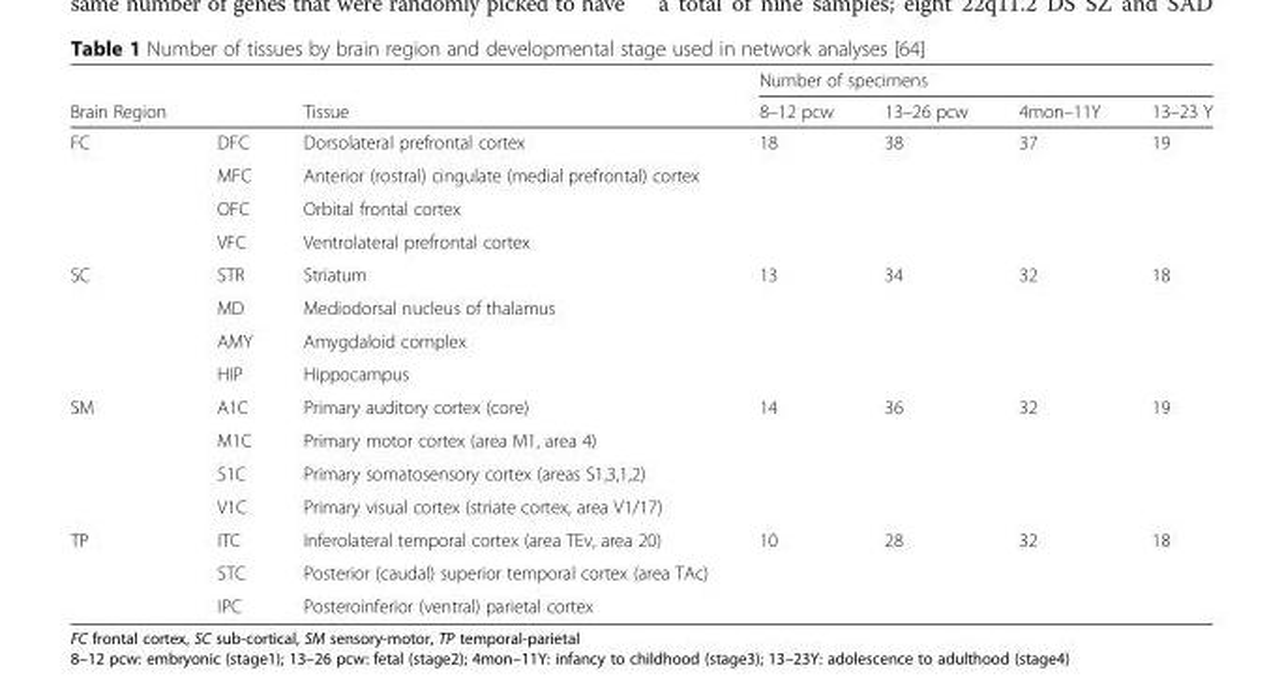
<table><thead><tr><td rowspan="2">Brain Region</td><td rowspan="2"></td><td rowspan="2">Tissue</td><td colspan="4">Number of specimens</td></tr><tr><td>8–12 pcw</td><td>13–26 pcw</td><td>4mon–11Y</td><td>13–23 Y</td></tr></thead><tbody><tr><td rowspan="4">FC</td><td>DFC</td><td>Dorsolateral prefrontal cortex</td><td rowspan="4">18</td><td rowspan="4">38</td><td rowspan="4">37</td><td rowspan="4">19</td></tr><tr><td>MFC</td><td>Anterior (rostral) cingulate (medial prefrontal) cortex</td></tr><tr><td>OFC</td><td>Orbital frontal cortex</td></tr><tr><td>VFC</td><td>Ventrolateral prefrontal cortex</td></tr><tr><td rowspan="4">SC</td><td>STR</td><td>Striatum</td><td rowspan="4">13</td><td rowspan="4">34</td><td rowspan="4">32</td><td rowspan="4">18</td></tr><tr><td>MD</td><td>Mediodorsal nucleus of thalamus</td></tr><tr><td>AMY</td><td>Amygdaloid complex</td></tr><tr><td>HIP</td><td>Hippocampus</td></tr><tr><td rowspan="4">SM</td><td>A1C</td><td>Primary auditory cortex (core)</td><td rowspan="4">14</td><td rowspan="4">36</td><td rowspan="4">32</td><td rowspan="4">19</td></tr><tr><td>M1C</td><td>Primary motor cortex (area M1, area 4)</td></tr><tr><td>S1C</td><td>Primary somatosensory cortex (areas S1,3,1,2)</td></tr><tr><td>V1C</td><td>Primary visual cortex (striate cortex, area V1/17)</td></tr><tr><td rowspan="3">TP</td><td>ITC</td><td>Inferolateral temporal cortex (area TEv, area 20)</td><td rowspan="3">10</td><td rowspan="3">28</td><td rowspan="3">32</td><td rowspan="3">18</td></tr><tr><td>STC</td><td>Posterior (caudal) superior temporal cortex (area TAc)</td></tr><tr><td>IPC</td><td>Posteroinferior (ventral) parietal cortex</td></tr></tbody></table>